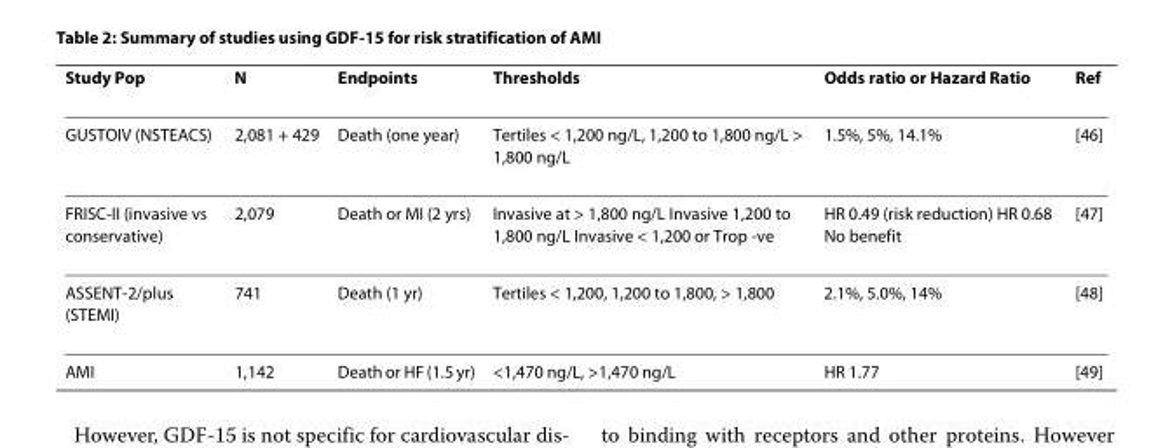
<table><thead><tr><td>Study Pop</td><td>N</td><td>Endpoints</td><td>Thresholds</td><td>Odds ratio or Hazard Ratio</td><td>Ref</td></tr></thead><tbody><tr><td>GUSTOIV (NSTEACS)</td><td>2,081 + 429</td><td>Death (one year)</td><td>Tertiles &lt; 1,200 ng/L, 1,200 to 1,800 ng/L &gt; 1,800 ng/L</td><td>1.5%, 5%, 14.1%</td><td>[46]</td></tr><tr><td>FRISC-II (invasive vs conservative)</td><td>2,079</td><td>Death or MI (2 yrs)</td><td>Invasive at &gt; 1,800 ng/L Invasive 1,200 to 1,800 ng/L Invasive &lt; 1,200 or Trop -ve</td><td>HR 0.49 (risk reduction) HR 0.68 No benefit</td><td>[47]</td></tr><tr><td>ASSENT-2/plus (STEMI)</td><td>741</td><td>Death (1 yr)</td><td>Tertiles &lt; 1,200, 1,200 to 1,800, &gt; 1,800</td><td>2.1%, 5.0%, 14%</td><td>[48]</td></tr><tr><td>AMI</td><td>1,142</td><td>Death or HF (1.5 yr)</td><td>&lt;1,470 ng/L, &gt;1,470 ng/L</td><td>HR 1.77</td><td>[49]</td></tr></tbody></table>